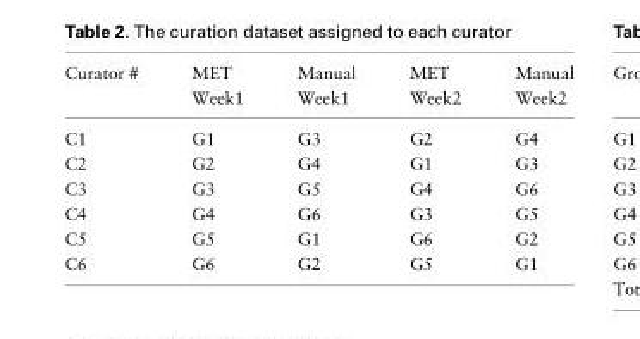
<table><thead><tr><td>Curator #</td><td>MET Week1</td><td>Manual Week1</td><td>MET Week2</td><td>Manual Week2</td></tr></thead><tbody><tr><td>C1</td><td>G1</td><td>G3</td><td>G2</td><td>G4</td></tr><tr><td>C2</td><td>G2</td><td>G4</td><td>G1</td><td>G3</td></tr><tr><td>C3</td><td>G3</td><td>G5</td><td>G4</td><td>G6</td></tr><tr><td>C4</td><td>G4</td><td>G6</td><td>G3</td><td>G5</td></tr><tr><td>C5</td><td>G5</td><td>G1</td><td>G6</td><td>G2</td></tr><tr><td>C6</td><td>G6</td><td>G2</td><td>G5</td><td>G1</td></tr></tbody></table>